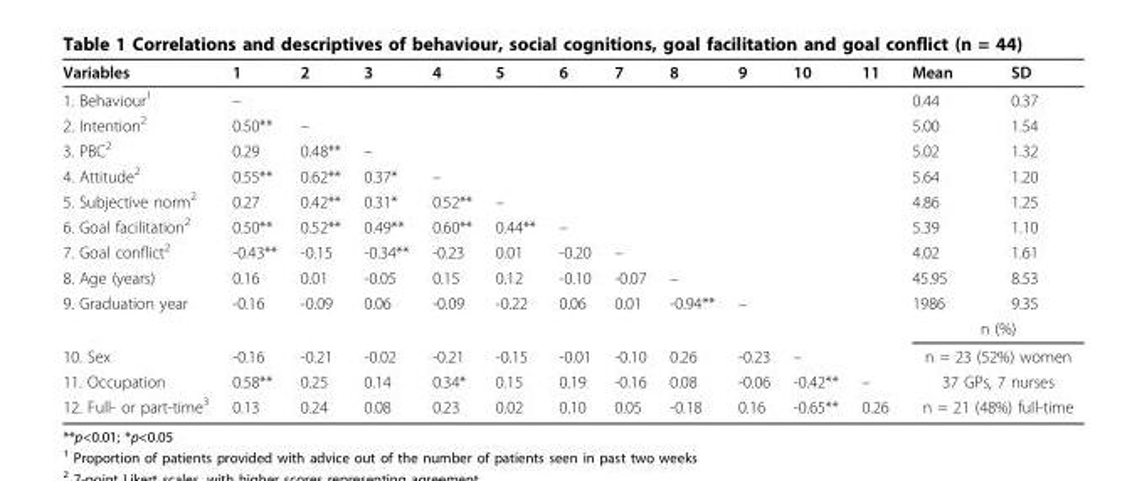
<table><thead><tr><td>Variables</td><td>1</td><td>2</td><td>3</td><td>4</td><td>5</td><td>6</td><td>7</td><td>8</td><td>9</td><td>10</td><td>11</td><td>Mean</td><td>SD</td></tr></thead><tbody><tr><td>1. Behaviour<sup>1</sup></td><td>–</td><td></td><td></td><td></td><td></td><td></td><td></td><td></td><td></td><td></td><td></td><td>0.44</td><td>0.37</td></tr><tr><td>2. Intention<sup>2</sup></td><td>0.50**</td><td>–</td><td></td><td></td><td></td><td></td><td></td><td></td><td></td><td></td><td></td><td>5.00</td><td>1.54</td></tr><tr><td>3. PBC<sup>2</sup></td><td>0.29</td><td>0.48**</td><td>–</td><td></td><td></td><td></td><td></td><td></td><td></td><td></td><td></td><td>5.02</td><td>1.32</td></tr><tr><td>4. Attitude<sup>2</sup></td><td>0.55**</td><td>0.62**</td><td>0.37*</td><td>–</td><td></td><td></td><td></td><td></td><td></td><td></td><td></td><td>5.64</td><td>1.20</td></tr><tr><td>5. Subjective norm<sup>2</sup></td><td>0.27</td><td>0.42**</td><td>0.31*</td><td>0.52**</td><td>–</td><td></td><td></td><td></td><td></td><td></td><td></td><td>4.86</td><td>1.25</td></tr><tr><td>6. Goal facilitation<sup>2</sup></td><td>0.50**</td><td>0.52**</td><td>0.49**</td><td>0.60**</td><td>0.44**</td><td>–</td><td></td><td></td><td></td><td></td><td></td><td>5.39</td><td>1.10</td></tr><tr><td>7. Goal conflict<sup>2</sup></td><td>-0.43**</td><td>-0.15</td><td>-0.34**</td><td>-0.23</td><td>0.01</td><td>-0.20</td><td>–</td><td></td><td></td><td></td><td></td><td>4.02</td><td>1.61</td></tr><tr><td>8. Age (years)</td><td>0.16</td><td>0.01</td><td>-0.05</td><td>0.15</td><td>0.12</td><td>-0.10</td><td>-0.07</td><td>–</td><td></td><td></td><td></td><td>45.95</td><td>8.53</td></tr><tr><td rowspan="2">9. Graduation year</td><td>-0.16</td><td>-0.09</td><td>0.06</td><td>-0.09</td><td>-0.22</td><td>0.06</td><td>0.01</td><td>-0.94**</td><td>–</td><td></td><td></td><td>1986</td><td>9.35</td></tr><tr><td></td><td></td><td></td><td></td><td></td><td></td><td></td><td></td><td></td><td></td><td></td><td colspan="2">n (%)</td></tr><tr><td>10. Sex</td><td>-0.16</td><td>-0.21</td><td>-0.02</td><td>-0.21</td><td>-0.15</td><td>-0.01</td><td>-0.10</td><td>0.26</td><td>-0.23</td><td>–</td><td></td><td colspan="2">n = 23 (52%) women</td></tr><tr><td>11. Occupation</td><td>0.58**</td><td>0.25</td><td>0.14</td><td>0.34*</td><td>0.15</td><td>0.19</td><td>-0.16</td><td>0.08</td><td>-0.06</td><td>-0.42**</td><td>–</td><td colspan="2">37 GPs, 7 nurses</td></tr><tr><td>12. Full- or part-time<sup>3</sup></td><td>0.13</td><td>0.24</td><td>0.08</td><td>0.23</td><td>0.02</td><td>0.10</td><td>0.05</td><td>-0.18</td><td>0.16</td><td>-0.65**</td><td>0.26</td><td colspan="2">n = 21 (48%) full-time</td></tr></tbody></table>